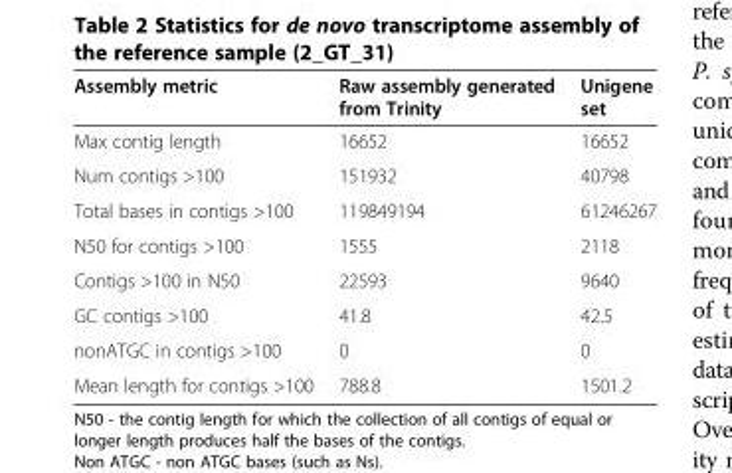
<table><thead><tr><td>Assembly metric</td><td>Raw assembly generated from Trinity</td><td>Unigene set</td></tr></thead><tbody><tr><td>Max contig length</td><td>16652</td><td>16652</td></tr><tr><td>Num contigs &gt;100</td><td>151932</td><td>40798</td></tr><tr><td>Total bases in contigs &gt;100</td><td>119849194</td><td>61246267</td></tr><tr><td>N50 for contigs &gt;100</td><td>1555</td><td>2118</td></tr><tr><td>Contigs &gt;100 in N50</td><td>22593</td><td>9640</td></tr><tr><td>GC contigs &gt;100</td><td>41.8</td><td>42.5</td></tr><tr><td>nonATGC in contigs &gt;100</td><td>0</td><td>0</td></tr><tr><td>Mean length for contigs &gt;100</td><td>788.8</td><td>1501.2</td></tr></tbody></table>